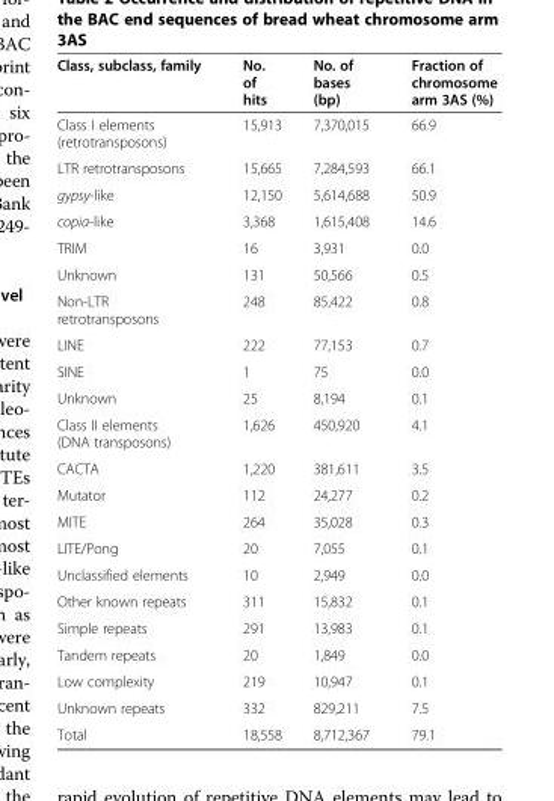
<table><thead><tr><td>Class, subclass, family</td><td>No. of hits</td><td>No. of bases (bp)</td><td>Fraction of chromosome arm 3AS (%)</td></tr></thead><tbody><tr><td>Class I elements (retrotransposons)</td><td>15,913</td><td>7,370,015</td><td>66.9</td></tr><tr><td>LTR retrotransposons</td><td>15,665</td><td>7,284,593</td><td>66.1</td></tr><tr><td>gypsy-like</td><td>12,150</td><td>5,614,688</td><td>50.9</td></tr><tr><td>copia-like</td><td>3,368</td><td>1,615,408</td><td>14.6</td></tr><tr><td>TRIM</td><td>16</td><td>3,931</td><td>0.0</td></tr><tr><td>Unknown</td><td>131</td><td>50,566</td><td>0.5</td></tr><tr><td>Non-LTR retrotransposons</td><td>248</td><td>85,422</td><td>0.8</td></tr><tr><td>LINE</td><td>222</td><td>77,153</td><td>0.7</td></tr><tr><td>SINE</td><td>1</td><td>75</td><td>0.0</td></tr><tr><td>Unknown</td><td>25</td><td>8,194</td><td>0.1</td></tr><tr><td>Class II elements (DNA transposons)</td><td>1,626</td><td>450,920</td><td>4.1</td></tr><tr><td>CACTA</td><td>1,220</td><td>381,611</td><td>3.5</td></tr><tr><td>Mutator</td><td>112</td><td>24,277</td><td>0.2</td></tr><tr><td>MITE</td><td>264</td><td>35,028</td><td>0.3</td></tr><tr><td>LITE/Pong</td><td>20</td><td>7,055</td><td>0.1</td></tr><tr><td>Unclassified elements</td><td>10</td><td>2,949</td><td>0.0</td></tr><tr><td>Other known repeats</td><td>311</td><td>15,832</td><td>0.1</td></tr><tr><td>Simple repeats</td><td>291</td><td>13,983</td><td>0.1</td></tr><tr><td>Tandem repeats</td><td>20</td><td>1,849</td><td>0.0</td></tr><tr><td>Low complexity</td><td>219</td><td>10,947</td><td>0.1</td></tr><tr><td>Unknown repeats</td><td>332</td><td>829,211</td><td>7.5</td></tr><tr><td>Total</td><td>18,558</td><td>8,712,367</td><td>79.1</td></tr></tbody></table>